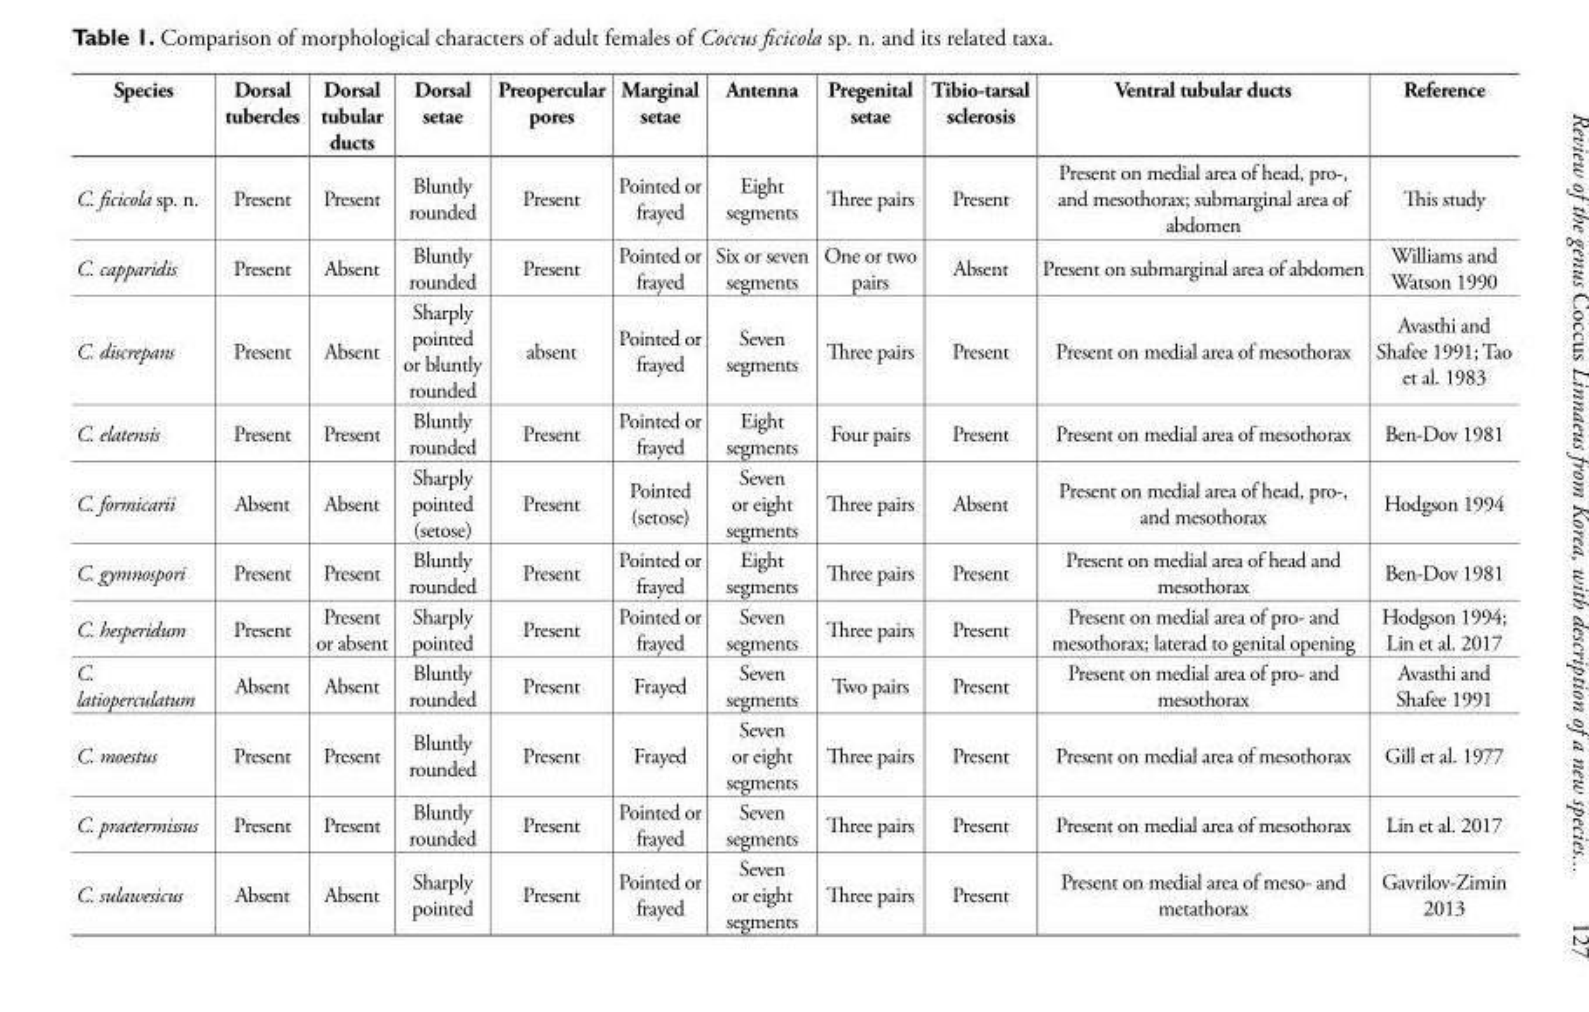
<table><thead><tr><td>Species</td><td>Dorsal tubercles</td><td>Dorsal tubular ducts</td><td>Dorsal setae</td><td>Preopercular pores</td><td>Marginal setae</td><td>Antenna</td><td>Pregenital setae</td><td>Tibio-tarsal sclerosis</td><td>Ventral tubular ducts</td><td>Reference</td></tr></thead><tbody><tr><td>C. ficicola sp. n.</td><td>Present</td><td>Present</td><td>Bluntly rounded</td><td>Present</td><td>Pointed or frayed</td><td>Eight segments</td><td>Three pairs</td><td>Present</td><td>Present on medial area of head, pro-, and mesothorax; submarginal area of abdomen</td><td>This study</td></tr><tr><td>C. capparidis</td><td>Present</td><td>Absent</td><td>Bluntly rounded</td><td>Present</td><td>Pointed or frayed</td><td>Six or seven segments</td><td>One or two pairs</td><td>Absent</td><td>Present on submarginal area of abdomen</td><td>Williams and Watson 1990</td></tr><tr><td>C. discrepans</td><td>Present</td><td>Absent</td><td>Sharply pointed or bluntly rounded</td><td>absent</td><td>Pointed or frayed</td><td>Seven segments</td><td>Three pairs</td><td>Present</td><td>Present on medial area of mesothorax</td><td>Avasthi and Shafee 1991; Tao et al. 1983</td></tr><tr><td>C. elatensis</td><td>Present</td><td>Present</td><td>Bluntly rounded</td><td>Present</td><td>Pointed or frayed</td><td>Eight segments</td><td>Four pairs</td><td>Present</td><td>Present on medial area of mesothorax</td><td>Ben-Dov 1981</td></tr><tr><td>C. formicarii</td><td>Absent</td><td>Absent</td><td>Sharply pointed (setose)</td><td>Present</td><td>Pointed (setose)</td><td>Seven or eight segments</td><td>Three pairs</td><td>Absent</td><td>Present on medial area of head, pro-, and mesothorax</td><td>Hodgson 1994</td></tr><tr><td>C. gymnospori</td><td>Present</td><td>Present</td><td>Bluntly rounded</td><td>Present</td><td>Pointed or frayed</td><td>Eight segments</td><td>Three pairs</td><td>Present</td><td>Present on medial area of head and mesothorax</td><td>Ben-Dov 1981</td></tr><tr><td>C. hesperidum</td><td>Present</td><td>Present or absent</td><td>Sharply pointed</td><td>Present</td><td>Pointed or frayed</td><td>Seven segments</td><td>Three pairs</td><td>Present</td><td>Present on medial area of pro- and mesothorax; laterad to genital opening</td><td>Hodgson 1994; Lin et al. 2017</td></tr><tr><td>C. latioperculatum</td><td>Absent</td><td>Absent</td><td>Bluntly rounded</td><td>Present</td><td>Frayed</td><td>Seven segments</td><td>Two pairs</td><td>Present</td><td>Present on medial area of pro- and mesothorax</td><td>Avasthi and Shafee 1991</td></tr><tr><td>C. moestus</td><td>Present</td><td>Present</td><td>Bluntly rounded</td><td>Present</td><td>Frayed</td><td>Seven or eight segments</td><td>Three pairs</td><td>Present</td><td>Present on medial area of mesothorax</td><td>Gill et al. 1977</td></tr><tr><td>C. praetermissus</td><td>Present</td><td>Present</td><td>Bluntly rounded</td><td>Present</td><td>Pointed or frayed</td><td>Seven segments</td><td>Three pairs</td><td>Present</td><td>Present on medial area of mesothorax</td><td>Lin et al. 2017</td></tr><tr><td>C. sulawesicus</td><td>Absent</td><td>Absent</td><td>Sharply pointed</td><td>Present</td><td>Pointed or frayed</td><td>Seven or eight segments</td><td>Three pairs</td><td>Present</td><td>Present on medial area of meso- and metathorax</td><td>Gavrilov-Zimin 2013</td></tr></tbody></table>